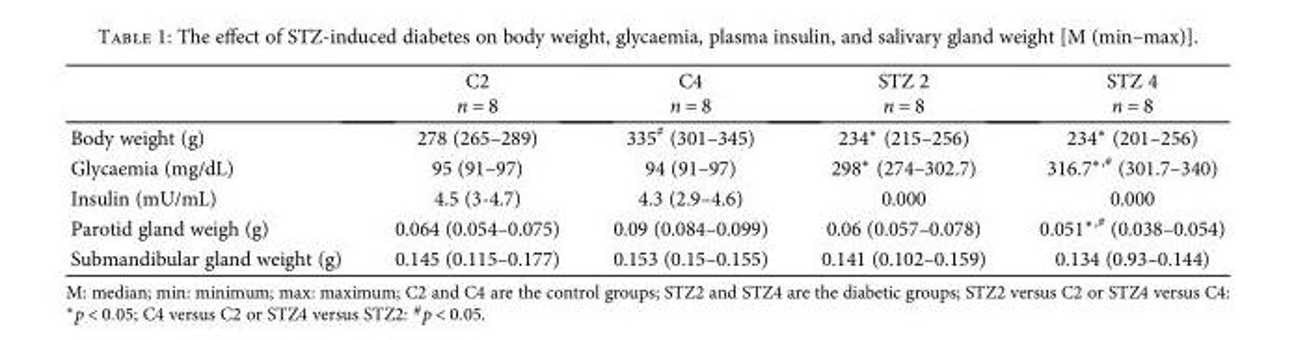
<table><thead><tr><td></td><td>C2 n = 8</td><td>C4 n = 8</td><td>STZ 2 n = 8</td><td>STZ 4 n = 8</td></tr></thead><tbody><tr><td>Body weight (g)</td><td>278 (265–289)</td><td>335<sup>#</sup> (301–345)</td><td>234∗ (215–256)</td><td>234∗ (201–256)</td></tr><tr><td>Glycaemia (mg/dL)</td><td>95 (91–97)</td><td>94 (91–97)</td><td>298∗ (274–302.7)</td><td>316.7<sup>∗,#</sup> (301.7–340)</td></tr><tr><td>Insulin (mU/mL)</td><td>4.5 (3-4.7)</td><td>4.3 (2.9–4.6)</td><td>0.000</td><td>0.000</td></tr><tr><td>Parotid gland weigh (g)</td><td>0.064 (0.054–0.075)</td><td>0.09 (0.084–0.099)</td><td>0.06 (0.057–0.078)</td><td>0.051<sup>∗,#</sup> (0.038–0.054)</td></tr><tr><td>Submandibular gland weight (g)</td><td>0.145 (0.115–0.177)</td><td>0.153 (0.15–0.155)</td><td>0.141 (0.102–0.159)</td><td>0.134 (0.93–0.144)</td></tr></tbody></table>